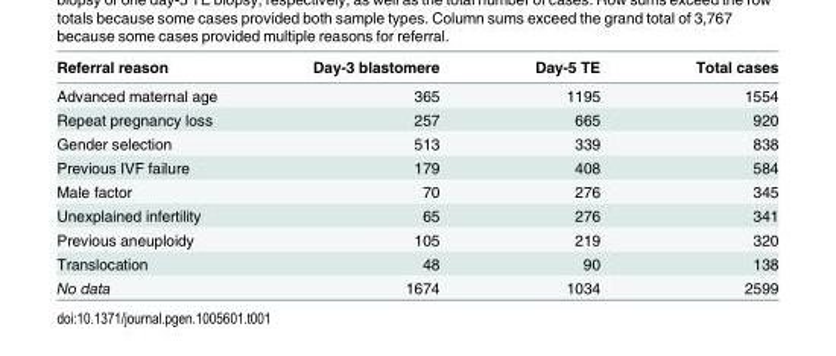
<table><thead><tr><td>Referral reason</td><td>Day-3 blastomere</td><td>Day-5 TE</td><td>Total cases</td></tr></thead><tbody><tr><td>Advanced maternal age</td><td>365</td><td>1195</td><td>1554</td></tr><tr><td>Repeat pregnancy loss</td><td>257</td><td>665</td><td>920</td></tr><tr><td>Gender selection</td><td>513</td><td>339</td><td>838</td></tr><tr><td>Previous IVF failure</td><td>179</td><td>408</td><td>584</td></tr><tr><td>Male factor</td><td>70</td><td>276</td><td>345</td></tr><tr><td>Unexplained infertility</td><td>65</td><td>276</td><td>341</td></tr><tr><td>Previous aneuploidy</td><td>105</td><td>219</td><td>320</td></tr><tr><td>Translocation</td><td>48</td><td>90</td><td>138</td></tr><tr><td>No data</td><td>1674</td><td>1034</td><td>2599</td></tr></tbody></table>